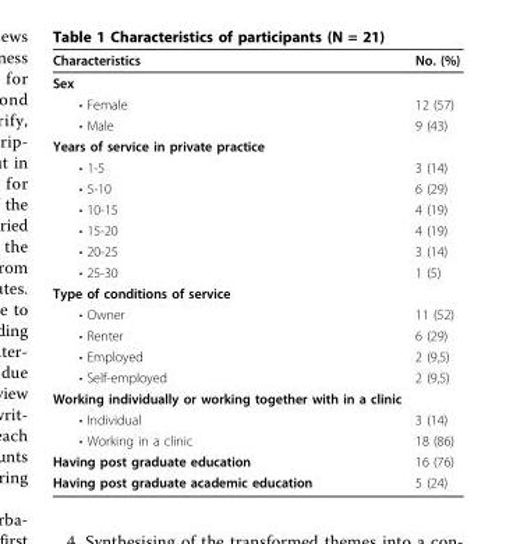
<table><thead><tr><td>Characteristics</td><td>No. (%)</td></tr></thead><tbody><tr><td colspan="2">Sex</td></tr><tr><td>• Female</td><td>12 (57)</td></tr><tr><td>• Male</td><td>9 (43)</td></tr><tr><td colspan="2">Years of service in private practice</td></tr><tr><td>• 1-5</td><td>3 (14)</td></tr><tr><td>• 5-10</td><td>6 (29)</td></tr><tr><td>• 10-15</td><td>4 (19)</td></tr><tr><td>• 15-20</td><td>4 (19)</td></tr><tr><td>• 20-25</td><td>3 (14)</td></tr><tr><td>• 25-30</td><td>1 (5)</td></tr><tr><td colspan="2">Type of conditions of service</td></tr><tr><td>• Owner</td><td>11 (52)</td></tr><tr><td>• Renter</td><td>6 (29)</td></tr><tr><td>• Employed</td><td>2 (9,5)</td></tr><tr><td>• Self-employed</td><td>2 (9,5)</td></tr><tr><td colspan="2">Working individually or working together with in a clinic</td></tr><tr><td>• Individual</td><td>3 (14)</td></tr><tr><td>• Working in a clinic</td><td>18 (86)</td></tr><tr><td>Having post graduate education</td><td>16 (76)</td></tr><tr><td>Having post graduate academic education</td><td>5 (24)</td></tr></tbody></table>